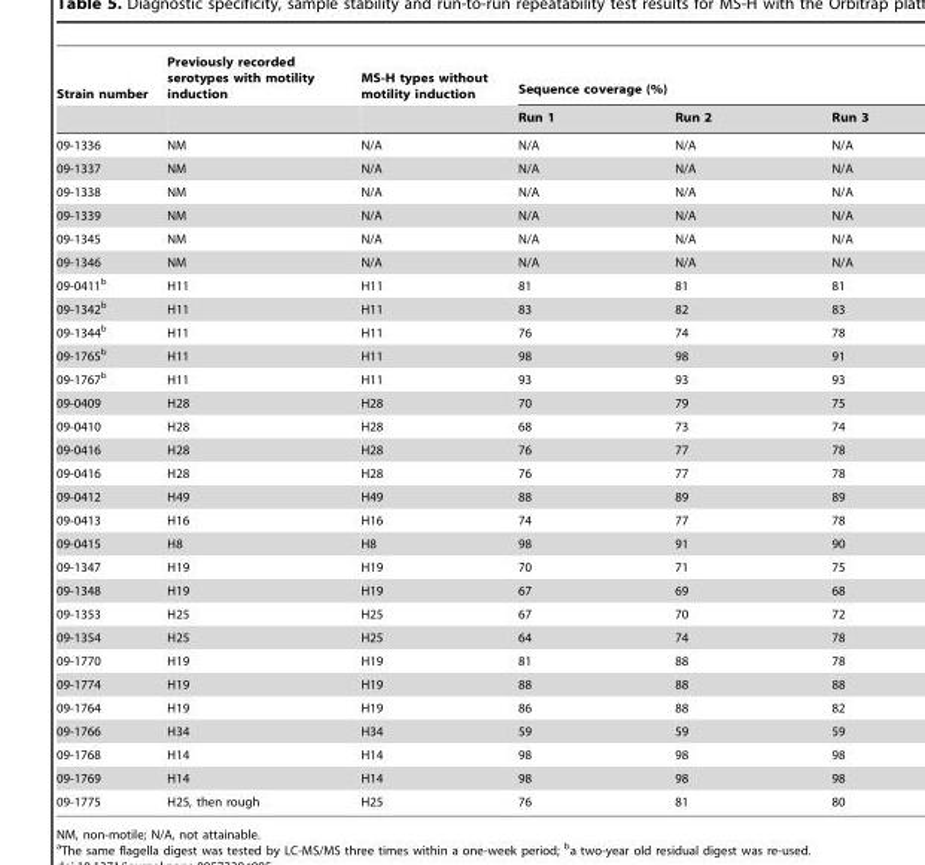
<table><thead><tr><td rowspan="2">Strain number</td><td rowspan="2">Previously recorded serotypes with motility induction</td><td rowspan="2">MS-H types without motility induction</td><td colspan="3">Sequence coverage (%)</td></tr><tr><td>Run 1</td><td>Run 2</td><td>Run 3</td></tr></thead><tbody><tr><td>09-1336</td><td>NM</td><td>N/A</td><td>N/A</td><td>N/A</td><td>N/A</td></tr><tr><td>09-1337</td><td>NM</td><td>N/A</td><td>N/A</td><td>N/A</td><td>N/A</td></tr><tr><td>09-1338</td><td>NM</td><td>N/A</td><td>N/A</td><td>N/A</td><td>N/A</td></tr><tr><td>09-1339</td><td>NM</td><td>N/A</td><td>N/A</td><td>N/A</td><td>N/A</td></tr><tr><td>09-1345</td><td>NM</td><td>N/A</td><td>N/A</td><td>N/A</td><td>N/A</td></tr><tr><td>09-1346</td><td>NM</td><td>N/A</td><td>N/A</td><td>N/A</td><td>N/A</td></tr><tr><td>09-0411<sup>b</sup></td><td>H11</td><td>H11</td><td>81</td><td>81</td><td>81</td></tr><tr><td>09-1342<sup>b</sup></td><td>H11</td><td>H11</td><td>83</td><td>82</td><td>83</td></tr><tr><td>09-1344<sup>b</sup></td><td>H11</td><td>H11</td><td>76</td><td>74</td><td>78</td></tr><tr><td>09-1765<sup>b</sup></td><td>H11</td><td>H11</td><td>98</td><td>98</td><td>91</td></tr><tr><td>09-1767<sup>b</sup></td><td>H11</td><td>H11</td><td>93</td><td>93</td><td>93</td></tr><tr><td>09-0409</td><td>H28</td><td>H28</td><td>70</td><td>79</td><td>75</td></tr><tr><td>09-0410</td><td>H28</td><td>H28</td><td>68</td><td>73</td><td>74</td></tr><tr><td>09-0416</td><td>H28</td><td>H28</td><td>76</td><td>77</td><td>78</td></tr><tr><td>09-0416</td><td>H28</td><td>H28</td><td>76</td><td>77</td><td>78</td></tr><tr><td>09-0412</td><td>H49</td><td>H49</td><td>88</td><td>89</td><td>89</td></tr><tr><td>09-0413</td><td>H16</td><td>H16</td><td>74</td><td>77</td><td>78</td></tr><tr><td>09-0415</td><td>H8</td><td>H8</td><td>98</td><td>91</td><td>90</td></tr><tr><td>09-1347</td><td>H19</td><td>H19</td><td>70</td><td>71</td><td>75</td></tr><tr><td>09-1348</td><td>H19</td><td>H19</td><td>67</td><td>69</td><td>68</td></tr><tr><td>09-1353</td><td>H25</td><td>H25</td><td>67</td><td>70</td><td>72</td></tr><tr><td>09-1354</td><td>H25</td><td>H25</td><td>64</td><td>74</td><td>78</td></tr><tr><td>09-1770</td><td>H19</td><td>H19</td><td>81</td><td>88</td><td>78</td></tr><tr><td>09-1774</td><td>H19</td><td>H19</td><td>88</td><td>88</td><td>88</td></tr><tr><td>09-1764</td><td>H19</td><td>H19</td><td>86</td><td>88</td><td>82</td></tr><tr><td>09-1766</td><td>H34</td><td>H34</td><td>59</td><td>59</td><td>59</td></tr><tr><td>09-1768</td><td>H14</td><td>H14</td><td>98</td><td>98</td><td>98</td></tr><tr><td>09-1769</td><td>H14</td><td>H14</td><td>98</td><td>98</td><td>98</td></tr><tr><td>09-1775</td><td>H25, then rough</td><td>H25</td><td>76</td><td>81</td><td>80</td></tr></tbody></table>